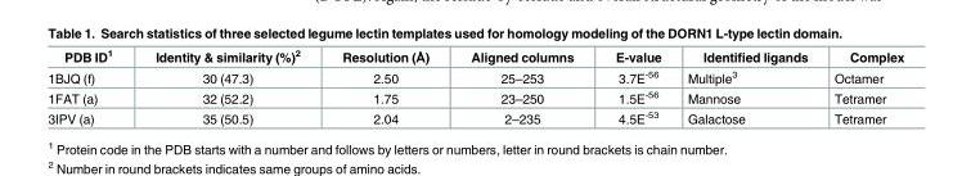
<table><thead><tr><td>PDB ID<sup>1</sup></td><td>Identity &amp; similarity (%)<sup>2</sup></td><td>Resolution (Å)</td><td>Aligned columns</td><td>E-value</td><td>Identified ligands</td><td>Complex</td></tr></thead><tbody><tr><td>1BJQ (f)</td><td>30 (47.3)</td><td>2.50</td><td>25–253</td><td>3.7E<sup>-56</sup></td><td>Multiple<sup>3</sup></td><td>Octamer</td></tr><tr><td>1FAT (a)</td><td>32 (52.2)</td><td>1.75</td><td>23–250</td><td>1.5E<sup>-56</sup></td><td>Mannose</td><td>Tetramer</td></tr><tr><td>3IPV (a)</td><td>35 (50.5)</td><td>2.04</td><td>2–235</td><td>4.5E<sup>-53</sup></td><td>Galactose</td><td>Tetramer</td></tr></tbody></table>